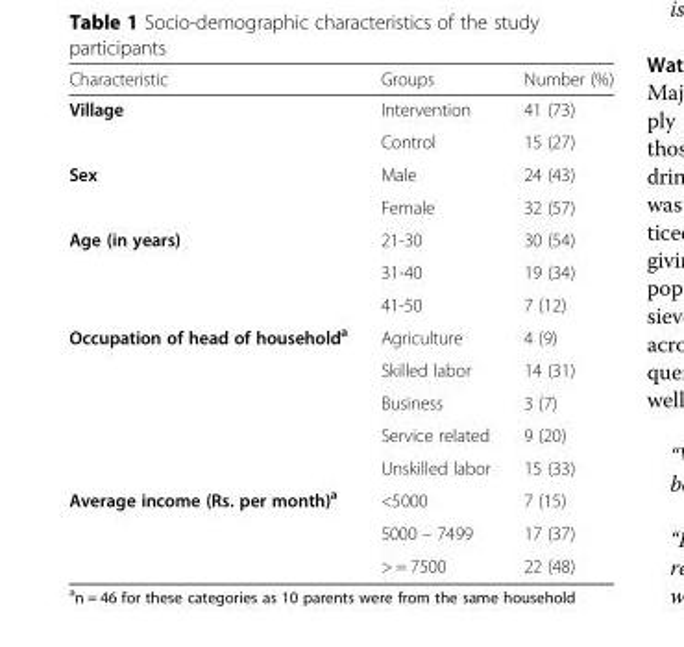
<table><thead><tr><td>Characteristic</td><td>Groups</td><td>Number (%)</td></tr></thead><tbody><tr><td rowspan="2">Village</td><td>Intervention</td><td>41 (73)</td></tr><tr><td>Control</td><td>15 (27)</td></tr><tr><td rowspan="2">Sex</td><td>Male</td><td>24 (43)</td></tr><tr><td>Female</td><td>32 (57)</td></tr><tr><td rowspan="3">Age (in years)</td><td>21-30</td><td>30 (54)</td></tr><tr><td>31-40</td><td>19 (34)</td></tr><tr><td>41-50</td><td>7 (12)</td></tr><tr><td rowspan="5">Occupation of head of household<sup>a</sup></td><td>Agriculture</td><td>4 (9)</td></tr><tr><td>Skilled labor</td><td>14 (31)</td></tr><tr><td>Business</td><td>3 (7)</td></tr><tr><td>Service related</td><td>9 (20)</td></tr><tr><td>Unskilled labor</td><td>15 (33)</td></tr><tr><td rowspan="3">Average income (Rs. per month)<sup>a</sup></td><td>&lt;5000</td><td>7 (15)</td></tr><tr><td>5000 – 7499</td><td>17 (37)</td></tr><tr><td>&gt; = 7500</td><td>22 (48)</td></tr></tbody></table>